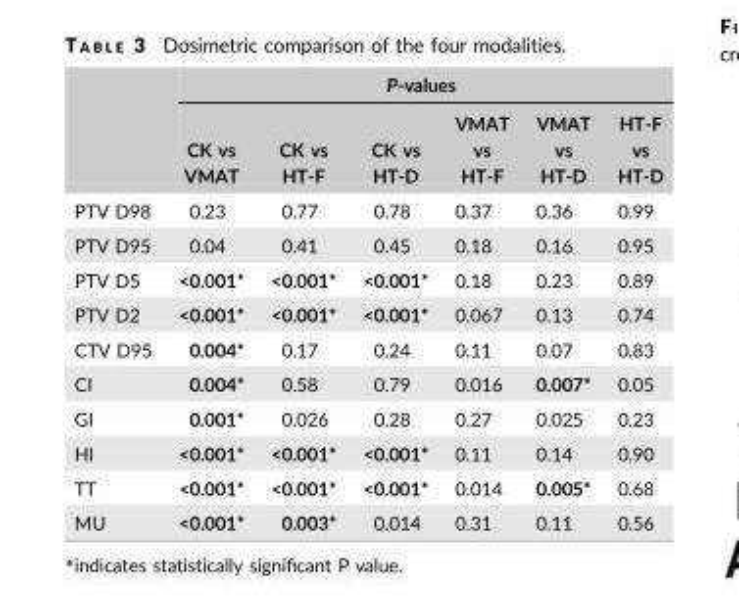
<table><thead><tr><td rowspan="2"></td><td colspan="6">P-values</td></tr><tr><td>CK vs VMAT</td><td>CK vs HT-F</td><td>CK vs HT-D</td><td>VMAT vs HT-F</td><td>VMAT vs HT-D</td><td>HT-F vs HT-D</td></tr></thead><tbody><tr><td>PTV D98</td><td>0.23</td><td>0.77</td><td>0.78</td><td>0.37</td><td>0.36</td><td>0.99</td></tr><tr><td>PTV D95</td><td>0.04</td><td>0.41</td><td>0.45</td><td>0.18</td><td>0.16</td><td>0.95</td></tr><tr><td>PTV D5</td><td>&lt;0.001*</td><td>&lt;0.001*</td><td>&lt;0.001*</td><td>0.18</td><td>0.23</td><td>0.89</td></tr><tr><td>PTV D2</td><td>&lt;0.001*</td><td>&lt;0.001*</td><td>&lt;0.001*</td><td>0.067</td><td>0.13</td><td>0.74</td></tr><tr><td>CTV D95</td><td>0.004*</td><td>0.17</td><td>0.24</td><td>0.11</td><td>0.07</td><td>0.83</td></tr><tr><td>CI</td><td>0.004*</td><td>0.58</td><td>0.79</td><td>0.016</td><td>0.007*</td><td>0.05</td></tr><tr><td>GI</td><td>0.001*</td><td>0.026</td><td>0.28</td><td>0.27</td><td>0.025</td><td>0.23</td></tr><tr><td>HI</td><td>&lt;0.001*</td><td>&lt;0.001*</td><td>&lt;0.001*</td><td>0.11</td><td>0.14</td><td>0.90</td></tr><tr><td>TT</td><td>&lt;0.001*</td><td>&lt;0.001*</td><td>&lt;0.001*</td><td>0.014</td><td>0.005*</td><td>0.68</td></tr><tr><td>MU</td><td>&lt;0.001*</td><td>0.003*</td><td>0.014</td><td>0.31</td><td>0.11</td><td>0.56</td></tr></tbody></table>